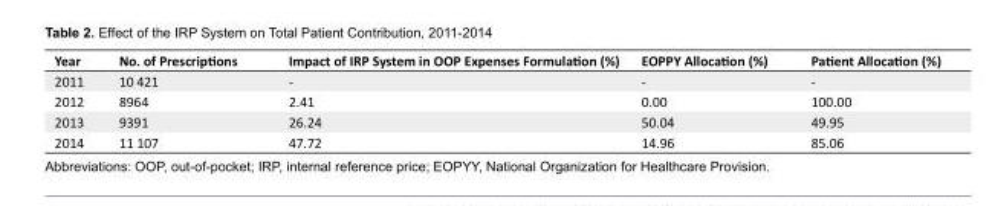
<table><tbody><tr><td>Year</td><td>No. of Prescriptions</td><td>Impact of IRP System in OOP Expenses Formulation (%)</td><td>EOPPY Allocation (%)</td><td>Patient Allocation (%)</td></tr><tr><td>2011</td><td>10 421</td><td>-</td><td>-</td><td>-</td></tr><tr><td>2012</td><td>8964</td><td>2.41</td><td>0.00</td><td>100.00</td></tr><tr><td>2013</td><td>9391</td><td>26.24</td><td>50.04</td><td>49.95</td></tr><tr><td>2014</td><td>11 107</td><td>47.72</td><td>14.96</td><td>85.06</td></tr></tbody></table>